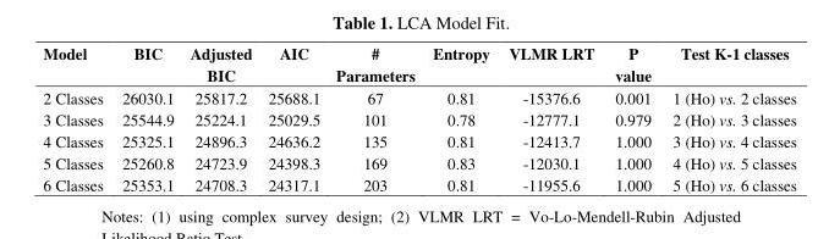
<table><thead><tr><td>Model</td><td>BIC</td><td>Adjusted BIC</td><td>AIC</td><td># Parameters</td><td>Entropy</td><td>VLMR LRT</td><td>P value</td><td>Test K-1 classes</td></tr></thead><tbody><tr><td>2 Classes</td><td>26030.1</td><td>25817.2</td><td>25688.1</td><td>67</td><td>0.81</td><td>-15376.6</td><td>0.001</td><td>1 (Ho) vs. 2 classes</td></tr><tr><td>3 Classes</td><td>25544.9</td><td>25224.1</td><td>25029.5</td><td>101</td><td>0.78</td><td>-12777.1</td><td>0.979</td><td>2 (Ho) vs. 3 classes</td></tr><tr><td>4 Classes</td><td>25325.1</td><td>24896.3</td><td>24636.2</td><td>135</td><td>0.81</td><td>-12413.7</td><td>1.000</td><td>3 (Ho) vs. 4 classes</td></tr><tr><td>5 Classes</td><td>25260.8</td><td>24723.9</td><td>24398.3</td><td>169</td><td>0.83</td><td>-12030.1</td><td>1.000</td><td>4 (Ho) vs. 5 classes</td></tr><tr><td>6 Classes</td><td>25353.1</td><td>24708.3</td><td>24317.1</td><td>203</td><td>0.81</td><td>-11955.6</td><td>1.000</td><td>5 (Ho) vs. 6 classes</td></tr></tbody></table>